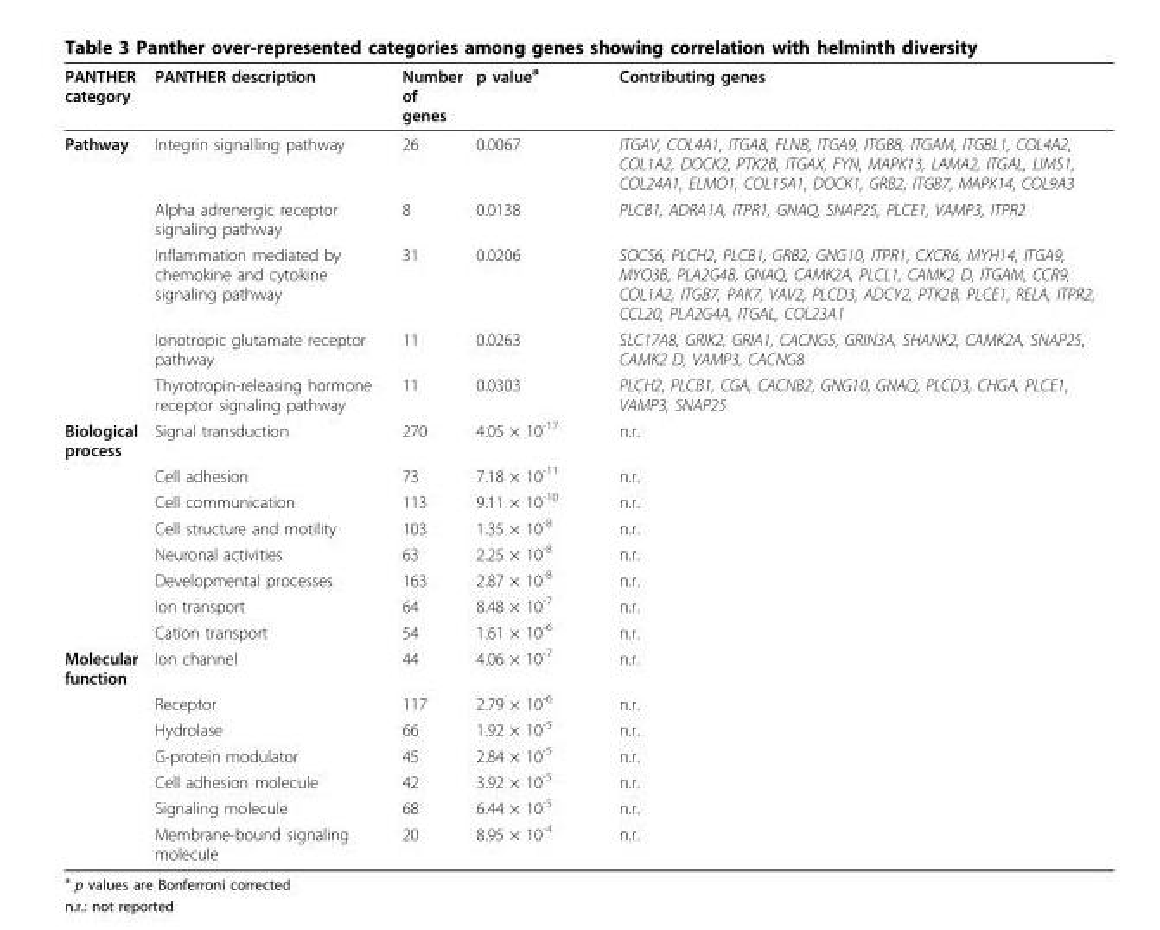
<table><thead><tr><td>PANTHER category</td><td>PANTHER description</td><td>Number of genes</td><td>p value<sup>a</sup></td><td>Contributing genes</td></tr></thead><tbody><tr><td rowspan="5">Pathway</td><td>Integrin signalling pathway</td><td>26</td><td>0.0067</td><td>ITGAV, COL4A1, ITGA8, FLNB, ITGA9, ITGB8, ITGAM, ITGBL1, COL4A2, COL1A2, DOCK2, PTK2B, ITGAX, FYN, MAPK13, LAMA2, ITGAL, LIMS1, COL24A1, ELMO1, COL15A1, DOCK1, GRB2, ITGB7, MAPK14, COL9A3</td></tr><tr><td>Alpha adrenergic receptor signaling pathway</td><td>8</td><td>0.0138</td><td>PLCB1, ADRA1A, ITPR1, GNAQ, SNAP25, PLCE1, VAMP3, ITPR2</td></tr><tr><td>Inflammation mediated by chemokine and cytokine signaling pathway</td><td>31</td><td>0.0206</td><td>SOCS6, PLCH2, PLCB1, GRB2, GNG10, ITPR1, CXCR6, MYH14, ITGA9, MYO3B, PLA2G4B, GNAQ, CAMK2A, PLCL1, CAMK2 D, ITGAM, CCR9, COL1A2, ITGB7, PAK7, VAV2, PLCD3, ADCY2, PTK2B, PLCE1, RELA, ITPR2, CCL20, PLA2G4A, ITGAL, COL23A1</td></tr><tr><td>Ionotropic glutamate receptor pathway</td><td>11</td><td>0.0263</td><td>SLC17A8, GRIK2, GRIA1, CACNG5, GRIN3A, SHANK2, CAMK2A, SNAP25, CAMK2 D, VAMP3, CACNG8</td></tr><tr><td>Thyrotropin-releasing hormone receptor signaling pathway</td><td>11</td><td>0.0303</td><td>PLCH2, PLCB1, CGA, CACNB2, GNG10, GNAQ, PLCD3, CHGA, PLCE1, VAMP3, SNAP25</td></tr><tr><td rowspan="8">Biological process</td><td>Signal transduction</td><td>270</td><td>4.05 × 10<sup>-17</sup></td><td>n.r.</td></tr><tr><td>Cell adhesion</td><td>73</td><td>7.18 × 10<sup>-11</sup></td><td>n.r.</td></tr><tr><td>Cell communication</td><td>113</td><td>9.11 × 10<sup>-10</sup></td><td>n.r.</td></tr><tr><td>Cell structure and motility</td><td>103</td><td>1.35 × 10<sup>-8</sup></td><td>n.r.</td></tr><tr><td>Neuronal activities</td><td>63</td><td>2.25 × 10<sup>-8</sup></td><td>n.r.</td></tr><tr><td>Developmental processes</td><td>163</td><td>2.87 × 10<sup>-8</sup></td><td>n.r.</td></tr><tr><td>Ion transport</td><td>64</td><td>8.48 × 10<sup>-7</sup></td><td>n.r.</td></tr><tr><td>Cation transport</td><td>54</td><td>1.61 × 10<sup>-6</sup></td><td>n.r.</td></tr><tr><td rowspan="7">Molecular function</td><td>Ion channel</td><td>44</td><td>4.06 × 10<sup>-7</sup></td><td>n.r.</td></tr><tr><td>Receptor</td><td>117</td><td>2.79 × 10<sup>-6</sup></td><td>n.r.</td></tr><tr><td>Hydrolase</td><td>66</td><td>1.92 × 10<sup>-5</sup></td><td>n.r.</td></tr><tr><td>G-protein modulator</td><td>45</td><td>2.84 × 10<sup>-5</sup></td><td>n.r.</td></tr><tr><td>Cell adhesion molecule</td><td>42</td><td>3.92 × 10<sup>-5</sup></td><td>n.r.</td></tr><tr><td>Signaling molecule</td><td>68</td><td>6.44 × 10<sup>-5</sup></td><td>n.r.</td></tr><tr><td>Membrane-bound signaling molecule</td><td>20</td><td>8.95 × 10<sup>-4</sup></td><td>n.r.</td></tr></tbody></table>